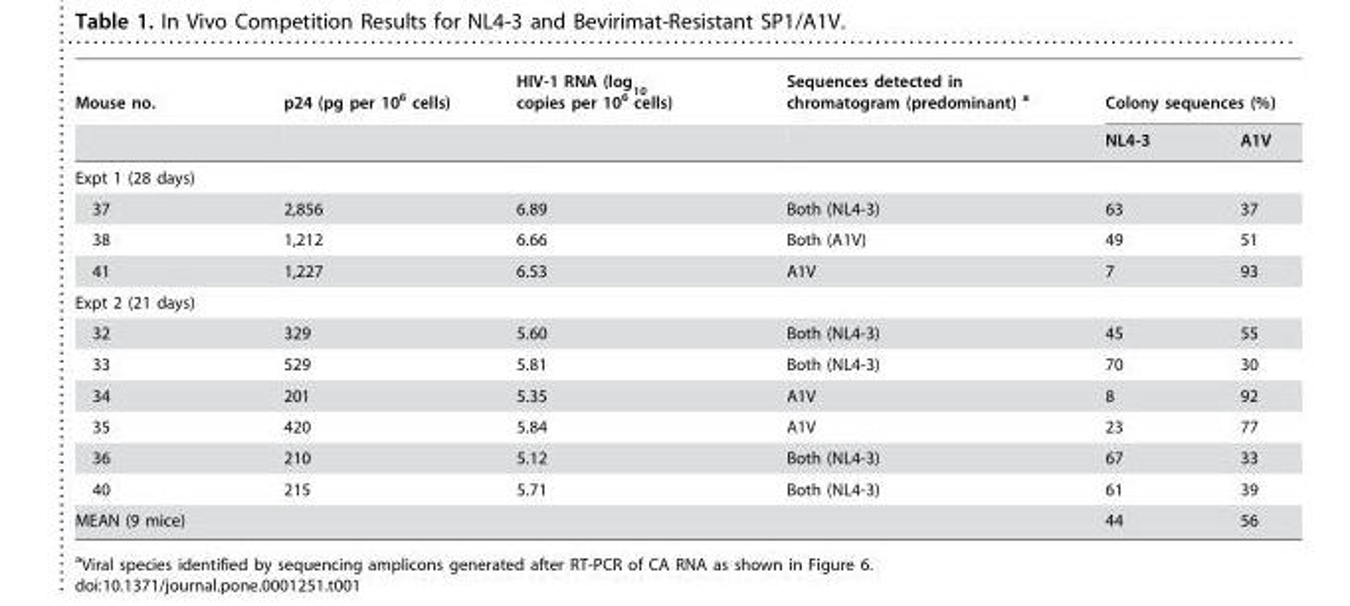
<table><thead><tr><td rowspan="2">Mouse no.</td><td rowspan="2">p24 (pg per 10<sup>6</sup> cells)</td><td rowspan="2">HIV-1 RNA (log<sub>10</sub> copies per 10<sup>6</sup> cells)</td><td rowspan="2">Sequences detected in chromatogram (predominant) a</td><td colspan="2">Colony sequences (%)</td></tr><tr><td>NL4-3</td><td>A1V</td></tr></thead><tbody><tr><td colspan="6">Expt 1 (28 days)</td></tr><tr><td>37</td><td>2,856</td><td>6.89</td><td>Both (NL4-3)</td><td>63</td><td>37</td></tr><tr><td>38</td><td>1,212</td><td>6.66</td><td>Both (A1V)</td><td>49</td><td>51</td></tr><tr><td>41</td><td>1,227</td><td>6.53</td><td>A1V</td><td>7</td><td>93</td></tr><tr><td colspan="6">Expt 2 (21 days)</td></tr><tr><td>32</td><td>329</td><td>5.60</td><td>Both (NL4-3)</td><td>45</td><td>55</td></tr><tr><td>33</td><td>529</td><td>5.81</td><td>Both (NL4-3)</td><td>70</td><td>30</td></tr><tr><td>34</td><td>201</td><td>5.35</td><td>A1V</td><td>8</td><td>92</td></tr><tr><td>35</td><td>420</td><td>5.84</td><td>A1V</td><td>23</td><td>77</td></tr><tr><td>36</td><td>210</td><td>5.12</td><td>Both (NL4-3)</td><td>67</td><td>33</td></tr><tr><td>40</td><td>215</td><td>5.71</td><td>Both (NL4-3)</td><td>61</td><td>39</td></tr><tr><td>MEAN (9 mice)</td><td></td><td></td><td></td><td>44</td><td>56</td></tr></tbody></table>